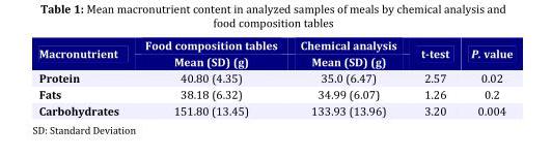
<table><thead><tr><td rowspan="2">Macronutrient</td><td rowspan="2">Food composition tables Mean (SD) (g)</td><td rowspan="2">Chemical analysis Mean (SD) (g)</td><td rowspan="2">t-test</td><td rowspan="2">P. value</td></tr><tr></tr></thead><tbody><tr><td>Protein</td><td>40.80 (4.35)</td><td>35.0 (6.47)</td><td>2.57</td><td>0.02</td></tr><tr><td>Fats</td><td>38.18 (6.32)</td><td>34.99 (6.07)</td><td>1.26</td><td>0.2</td></tr><tr><td>Carbohydrates</td><td>151.80 (13.45)</td><td>133.93 (13.96)</td><td>3.20</td><td>0.004</td></tr></tbody></table>